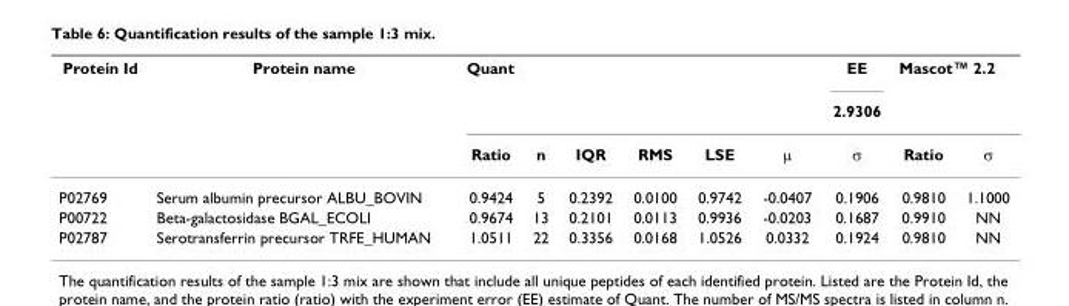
<table><thead><tr><td rowspan="3">Protein Id</td><td rowspan="3">Protein name</td><td colspan="6">Quant</td><td rowspan="3">EE 2.9306 σ</td><td colspan="2">Mascot™ 2.2</td></tr><tr><td rowspan="2">Ratio</td><td rowspan="2">n</td><td rowspan="2">IQR</td><td rowspan="2">RMS</td><td rowspan="2">LSE</td><td rowspan="2">μ</td><td rowspan="2">Ratio</td><td rowspan="2">σ</td></tr><tr></tr></thead><tbody><tr><td>P02769</td><td>Serum albumin precursor ALBU_BOVIN</td><td>0.9424</td><td>5</td><td>0.2392</td><td>0.0100</td><td>0.9742</td><td>-0.0407</td><td>0.1906</td><td>0.9810</td><td>1.1000</td></tr><tr><td>P00722</td><td>Beta-galactosidase BGAL_ECOLI</td><td>0.9674</td><td>13</td><td>0.2101</td><td>0.0113</td><td>0.9936</td><td>-0.0203</td><td>0.1687</td><td>0.9910</td><td>NN</td></tr><tr><td>P02787</td><td>Serotransferrin precursor TRFE_HUMAN</td><td>1.0511</td><td>22</td><td>0.3356</td><td>0.0168</td><td>1.0526</td><td>0.0332</td><td>0.1924</td><td>0.9810</td><td>NN</td></tr></tbody></table>